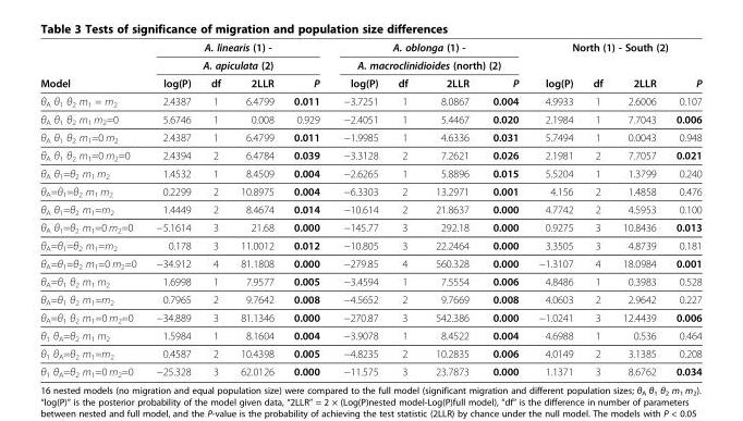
<table><thead><tr><td rowspan="3">Model</td><td rowspan="2" colspan="4">A. linearis (1) - A. apiculata (2)</td><td rowspan="2" colspan="4">A. oblonga (1) - A. macroclinidioides (north) (2)</td><td rowspan="2" colspan="4">North (1) - South (2)</td></tr><tr></tr><tr><td>log(P)</td><td>df</td><td>2LLR</td><td>P</td><td>log(P)</td><td>df</td><td>2LLR</td><td>P</td><td>log(P)</td><td>df</td><td>2LLR</td><td>P</td></tr></thead><tbody><tr><td>θ<sub>A</sub> θ<sub>1</sub> θ<sub>2</sub> m<sub>1</sub> = m<sub>2</sub></td><td>2.4387</td><td>1</td><td>6.4799</td><td>0.011</td><td>−3.7251</td><td>1</td><td>8.0867</td><td>0.004</td><td>4.9933</td><td>1</td><td>2.6006</td><td>0.107</td></tr><tr><td>θ<sub>A</sub> θ<sub>1</sub> θ<sub>2</sub> m<sub>1</sub> m<sub>2</sub>=0</td><td>5.6746</td><td>1</td><td>0.008</td><td>0.929</td><td>−2.4051</td><td>1</td><td>5.4467</td><td>0.020</td><td>2.1984</td><td>1</td><td>7.7043</td><td>0.006</td></tr><tr><td>θ<sub>A</sub> θ<sub>1</sub> θ<sub>2</sub> m<sub>1</sub>=0 m<sub>2</sub></td><td>2.4387</td><td>1</td><td>6.4799</td><td>0.011</td><td>−1.9985</td><td>1</td><td>4.6336</td><td>0.031</td><td>5.7494</td><td>1</td><td>0.0043</td><td>0.948</td></tr><tr><td>θ<sub>A</sub> θ<sub>1</sub> θ<sub>2</sub> m<sub>1</sub>=0 m<sub>2</sub>=0</td><td>2.4394</td><td>2</td><td>6.4784</td><td>0.039</td><td>−3.3128</td><td>2</td><td>7.2621</td><td>0.026</td><td>2.1981</td><td>2</td><td>7.7057</td><td>0.021</td></tr><tr><td>θ<sub>A</sub> θ<sub>1</sub>=θ<sub>2</sub> m<sub>1</sub> m<sub>2</sub></td><td>1.4532</td><td>1</td><td>8.4509</td><td>0.004</td><td>−2.6265</td><td>1</td><td>5.8896</td><td>0.015</td><td>5.5204</td><td>1</td><td>1.3799</td><td>0.240</td></tr><tr><td>θ<sub>A</sub>=θ<sub>1</sub>=θ<sub>2</sub> m<sub>1</sub> m<sub>2</sub></td><td>0.2299</td><td>2</td><td>10.8975</td><td>0.004</td><td>−6.3303</td><td>2</td><td>13.2971</td><td>0.001</td><td>4.156</td><td>2</td><td>1.4858</td><td>0.476</td></tr><tr><td>θ<sub>A</sub> θ<sub>1</sub>=θ<sub>2</sub> m<sub>1</sub>=m<sub>2</sub></td><td>1.4449</td><td>2</td><td>8.4674</td><td>0.014</td><td>−10.614</td><td>2</td><td>21.8637</td><td>0.000</td><td>4.7742</td><td>2</td><td>4.5953</td><td>0.100</td></tr><tr><td>θ<sub>A</sub> θ<sub>1</sub>=θ<sub>2</sub> m<sub>1</sub>=0 m<sub>2</sub>=0</td><td>−5.1614</td><td>3</td><td>21.68</td><td>0.000</td><td>−145.77</td><td>3</td><td>292.18</td><td>0.000</td><td>0.9275</td><td>3</td><td>10.8436</td><td>0.013</td></tr><tr><td>θ<sub>A</sub>=θ<sub>1</sub>=θ<sub>2</sub> m<sub>1</sub>=m<sub>2</sub></td><td>0.178</td><td>3</td><td>11.0012</td><td>0.012</td><td>−10.805</td><td>3</td><td>22.2464</td><td>0.000</td><td>3.3505</td><td>3</td><td>4.8739</td><td>0.181</td></tr><tr><td>θ<sub>A</sub>=θ<sub>1</sub>=θ<sub>2</sub> m<sub>1</sub>=0 m<sub>2</sub>=0</td><td>−34.912</td><td>4</td><td>81.1808</td><td>0.000</td><td>−279.85</td><td>4</td><td>560.328</td><td>0.000</td><td>−1.3107</td><td>4</td><td>18.0984</td><td>0.001</td></tr><tr><td>θ<sub>A</sub>=θ<sub>1</sub> θ<sub>2</sub> m<sub>1</sub> m<sub>2</sub></td><td>1.6998</td><td>1</td><td>7.9577</td><td>0.005</td><td>−3.4594</td><td>1</td><td>7.5554</td><td>0.006</td><td>4.8486</td><td>1</td><td>0.3983</td><td>0.528</td></tr><tr><td>θ<sub>A</sub>=θ<sub>1</sub> θ<sub>2</sub> m<sub>1</sub>=m<sub>2</sub></td><td>0.7965</td><td>2</td><td>9.7642</td><td>0.008</td><td>−4.5652</td><td>2</td><td>9.7669</td><td>0.008</td><td>4.0603</td><td>2</td><td>2.9642</td><td>0.227</td></tr><tr><td>θ<sub>A</sub>=θ<sub>1</sub> θ<sub>2</sub> m<sub>1</sub>=0 m<sub>2</sub>=0</td><td>−34.889</td><td>3</td><td>81.1346</td><td>0.000</td><td>−270.87</td><td>3</td><td>542.386</td><td>0.000</td><td>−1.0241</td><td>3</td><td>12.4439</td><td>0.006</td></tr><tr><td>θ<sub>1</sub> θ<sub>A</sub>=θ<sub>2</sub> m<sub>1</sub> m<sub>2</sub></td><td>1.5984</td><td>1</td><td>8.1604</td><td>0.004</td><td>−3.9078</td><td>1</td><td>8.4522</td><td>0.004</td><td>4.6988</td><td>1</td><td>0.536</td><td>0.464</td></tr><tr><td>θ<sub>1</sub> θ<sub>A</sub>=θ<sub>2</sub> m<sub>1</sub>=m<sub>2</sub></td><td>0.4587</td><td>2</td><td>10.4398</td><td>0.005</td><td>−4.8235</td><td>2</td><td>10.2835</td><td>0.006</td><td>4.0149</td><td>2</td><td>3.1385</td><td>0.208</td></tr><tr><td>θ<sub>1</sub> θ<sub>A</sub>=θ<sub>2</sub> m<sub>1</sub>=0 m<sub>2</sub>=0</td><td>−25.328</td><td>3</td><td>62.0126</td><td>0.000</td><td>−11.575</td><td>3</td><td>23.7873</td><td>0.000</td><td>1.1371</td><td>3</td><td>8.6762</td><td>0.034</td></tr></tbody></table>